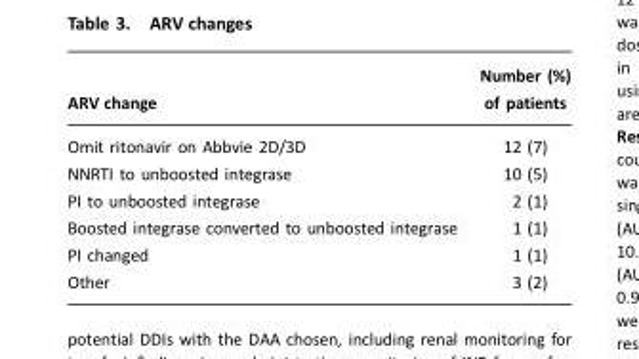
<table><thead><tr><td>ARV change</td><td>Number (%) of patients</td></tr></thead><tbody><tr><td>Omit ritonavir on Abbvie 2D/3D</td><td>12 (7)</td></tr><tr><td>NNRTI to unboosted integrase</td><td>10 (5)</td></tr><tr><td>PI to unboosted integrase</td><td>2 (1)</td></tr><tr><td>Boosted integrase converted to unboosted integrase</td><td>1 (1)</td></tr><tr><td>PI changed</td><td>1 (1)</td></tr><tr><td>Other</td><td>3 (2)</td></tr></tbody></table>